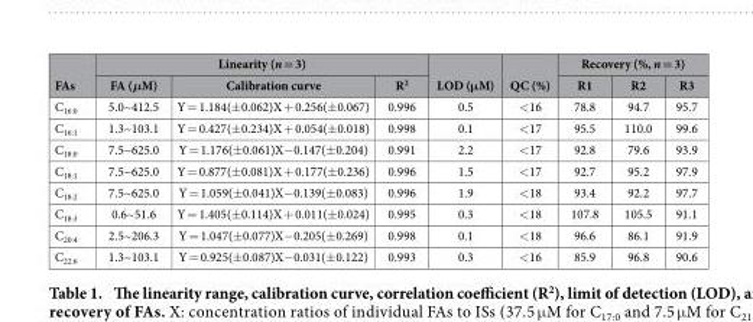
<table><thead><tr><td rowspan="2">FAs</td><td colspan="3">Linearity (n = 3)</td><td rowspan="2">LOD (μM)</td><td rowspan="2">QC (%)</td><td colspan="3">Recovery (%, n = 3)</td></tr><tr><td>FA (μM)</td><td>Calibration curve</td><td>R<sup>2</sup></td><td>R1</td><td>R2</td><td>R3</td></tr></thead><tbody><tr><td>C<sub>16:0</sub></td><td>5.0~412.5</td><td>Y = 1.184(± 0.062)X + 0.256(± 0.067)</td><td>0.996</td><td>0.5</td><td>&lt; 16</td><td>78.8</td><td>94.7</td><td>95.7</td></tr><tr><td>C<sub>16:1</sub></td><td>1.3~103.1</td><td>Y = 0.427(± 0.234)X + 0.054(± 0.018)</td><td>0.998</td><td>0.1</td><td>&lt; 17</td><td>95.5</td><td>110.0</td><td>99.6</td></tr><tr><td>C<sub>18:0</sub></td><td>7.5~625.0</td><td>Y = 1.176(± 0.061)X− 0.147(± 0.204)</td><td>0.991</td><td>2.2</td><td>&lt; 17</td><td>92.8</td><td>79.6</td><td>93.9</td></tr><tr><td>C<sub>18:1</sub></td><td>7.5~625.0</td><td>Y = 0.877(± 0.081)X + 0.177(± 0.236)</td><td>0.996</td><td>1.5</td><td>&lt; 17</td><td>92.7</td><td>95.2</td><td>97.9</td></tr><tr><td>C<sub>18:2</sub></td><td>7.5~625.0</td><td>Y = 1.059(± 0.041)X− 0.139(± 0.083)</td><td>0.996</td><td>1.9</td><td>&lt; 18</td><td>93.4</td><td>92.2</td><td>97.7</td></tr><tr><td>C<sub>18:3</sub></td><td>0.6~51.6</td><td>Y = 1.405(± 0.114)X + 0.011(± 0.024)</td><td>0.995</td><td>0.3</td><td>&lt; 18</td><td>107.8</td><td>105.5</td><td>91.1</td></tr><tr><td>C<sub>20:4</sub></td><td>2.5~206.3</td><td>Y = 1.047(± 0.077)X− 0.205(± 0.269)</td><td>0.998</td><td>0.1</td><td>&lt; 18</td><td>96.6</td><td>86.1</td><td>91.9</td></tr><tr><td>C<sub>22:6</sub></td><td>1.3~103.1</td><td>Y = 0.925(± 0.087)X− 0.031(± 0.122)</td><td>0.993</td><td>0.3</td><td>&lt; 16</td><td>85.9</td><td>96.8</td><td>90.6</td></tr></tbody></table>